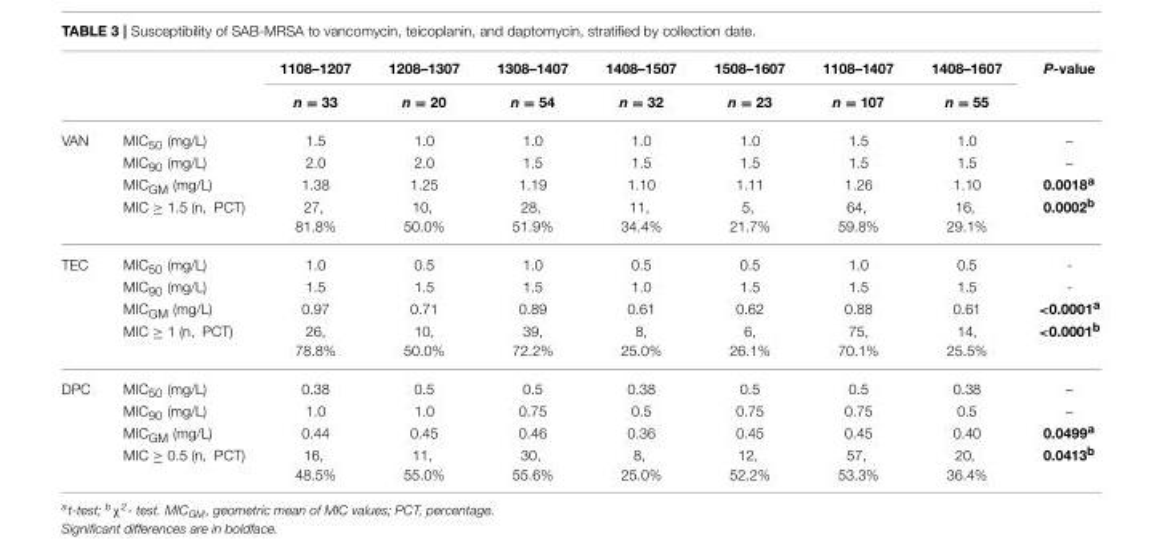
<table><thead><tr><td rowspan="2"></td><td rowspan="2"></td><td rowspan="2">1108–1207 n = 33</td><td rowspan="2">1208–1307 n = 20</td><td rowspan="2">1308–1407 n = 54</td><td rowspan="2">1408–1507 n = 32</td><td rowspan="2">1508–1607 n = 23</td><td rowspan="2">1108–1407 n = 107</td><td rowspan="2">1408–1607 n = 55</td><td rowspan="2">P-value</td></tr><tr></tr></thead><tbody><tr><td rowspan="4">VAN</td><td>MIC<sub>50</sub> (mg/L)</td><td>1.5</td><td>1.0</td><td>1.0</td><td>1.0</td><td>1.0</td><td>1.5</td><td>1.0</td><td>–</td></tr><tr><td>MIC<sub>90</sub> (mg/L)</td><td>2.0</td><td>2.0</td><td>1.5</td><td>1.5</td><td>1.5</td><td>1.5</td><td>1.5</td><td>–</td></tr><tr><td>MIC<sub>GM</sub> (mg/L)</td><td>1.38</td><td>1.25</td><td>1.19</td><td>1.10</td><td>1.11</td><td>1.26</td><td>1.10</td><td>0.0018<sup>a</sup></td></tr><tr><td>MIC ≥ 1.5 (n, PCT)</td><td>27, 81.8%</td><td>10, 50.0%</td><td>28, 51.9%</td><td>11, 34.4%</td><td>5, 21.7%</td><td>64, 59.8%</td><td>16, 29.1%</td><td>0.0002<sup>b</sup></td></tr><tr><td rowspan="4">TEC</td><td>MIC<sub>50</sub> (mg/L)</td><td>1.0</td><td>0.5</td><td>1.0</td><td>0.5</td><td>0.5</td><td>1.0</td><td>0.5</td><td>-</td></tr><tr><td>MIC<sub>90</sub> (mg/L)</td><td>1.5</td><td>1.5</td><td>1.5</td><td>1.0</td><td>1.5</td><td>1.5</td><td>1.5</td><td>-</td></tr><tr><td>MIC<sub>GM</sub> (mg/L)</td><td>0.97</td><td>0.71</td><td>0.89</td><td>0.61</td><td>0.62</td><td>0.88</td><td>0.61</td><td>&lt;0.0001<sup>a</sup></td></tr><tr><td>MIC ≥ 1 (n, PCT)</td><td>26, 78.8%</td><td>10, 50.0%</td><td>39, 72.2%</td><td>8, 25.0%</td><td>6, 26.1%</td><td>75, 70.1%</td><td>14, 25.5%</td><td>&lt;0.0001<sup>b</sup></td></tr><tr><td rowspan="4">DPC</td><td>MIC<sub>50</sub> (mg/L)</td><td>0.38</td><td>0.5</td><td>0.5</td><td>0.38</td><td>0.5</td><td>0.5</td><td>0.38</td><td>–</td></tr><tr><td>MIC<sub>90</sub> (mg/L)</td><td>1.0</td><td>1.0</td><td>0.75</td><td>0.5</td><td>0.75</td><td>0.75</td><td>0.5</td><td>–</td></tr><tr><td>MIC<sub>GM</sub> (mg/L)</td><td>0.44</td><td>0.45</td><td>0.46</td><td>0.36</td><td>0.45</td><td>0.45</td><td>0.40</td><td>0.0499<sup>a</sup></td></tr><tr><td>MIC ≥ 0.5 (n, PCT)</td><td>16, 48.5%</td><td>11, 55.0%</td><td>30, 55.6%</td><td>8, 25.0%</td><td>12, 52.2%</td><td>57, 53.3%</td><td>20, 36.4%</td><td>0.0413<sup>b</sup></td></tr></tbody></table>